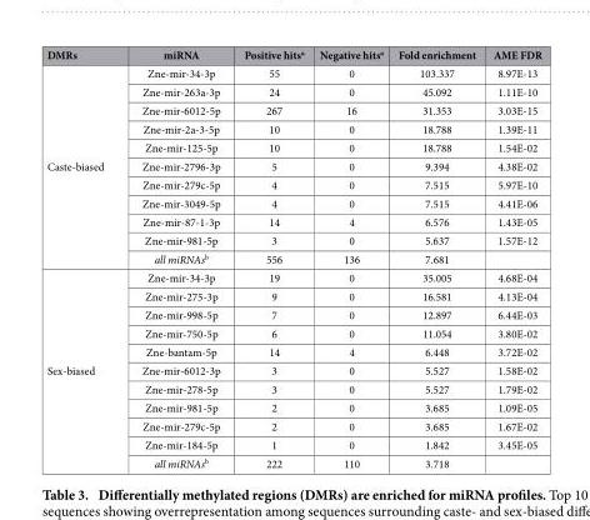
<table><thead><tr><td>DMRs</td><td>miRNA</td><td>Positive hits<sup>a</sup></td><td>Negative hits<sup>a</sup></td><td>Fold enrichment</td><td>AME FDR</td></tr></thead><tbody><tr><td rowspan="11">Caste-biased</td><td>Zne-mir-34-3p</td><td>55</td><td>0</td><td>103.337</td><td>8.97E-13</td></tr><tr><td>Zne-mir-263a-3p</td><td>24</td><td>0</td><td>45.092</td><td>1.11E-10</td></tr><tr><td>Zne-mir-6012-5p</td><td>267</td><td>16</td><td>31.353</td><td>3.03E-15</td></tr><tr><td>Zne-mir-2a-3-5p</td><td>10</td><td>0</td><td>18.788</td><td>1.39E-11</td></tr><tr><td>Zne-mir-125-5p</td><td>10</td><td>0</td><td>18.788</td><td>1.54E-02</td></tr><tr><td>Zne-mir-2796-3p</td><td>5</td><td>0</td><td>9.394</td><td>4.38E-02</td></tr><tr><td>Zne-mir-279c-5p</td><td>4</td><td>0</td><td>7.515</td><td>5.97E-10</td></tr><tr><td>Zne-mir-3049-5p</td><td>4</td><td>0</td><td>7.515</td><td>4.41E-06</td></tr><tr><td>Zne-mir-87-1-3p</td><td>14</td><td>4</td><td>6.576</td><td>1.43E-05</td></tr><tr><td>Zne-mir-981-5p</td><td>3</td><td>0</td><td>5.637</td><td>1.57E-12</td></tr><tr><td>all miRNAs<sup>b</sup></td><td>556</td><td>136</td><td>7.681</td><td></td></tr><tr><td rowspan="11">Sex-biased</td><td>Zne-mir-34-3p</td><td>19</td><td>0</td><td>35.005</td><td>4.68E-04</td></tr><tr><td>Zne-mir-275-3p</td><td>9</td><td>0</td><td>16.581</td><td>4.13E-04</td></tr><tr><td>Zne-mir-998-5p</td><td>7</td><td>0</td><td>12.897</td><td>6.44E-03</td></tr><tr><td>Zne-mir-750-5p</td><td>6</td><td>0</td><td>11.054</td><td>3.80E-02</td></tr><tr><td>Zne-bantam-5p</td><td>14</td><td>4</td><td>6.448</td><td>3.72E-02</td></tr><tr><td>Zne-mir-6012-3p</td><td>3</td><td>0</td><td>5.527</td><td>1.58E-02</td></tr><tr><td>Zne-mir-278-5p</td><td>3</td><td>0</td><td>5.527</td><td>1.79E-02</td></tr><tr><td>Zne-mir-981-5p</td><td>2</td><td>0</td><td>3.685</td><td>1.09E-05</td></tr><tr><td>Zne-mir-279c-5p</td><td>2</td><td>0</td><td>3.685</td><td>1.67E-02</td></tr><tr><td>Zne-mir-184-5p</td><td>1</td><td>0</td><td>1.842</td><td>3.45E-05</td></tr><tr><td>all miRNAs<sup>b</sup></td><td>222</td><td>110</td><td>3.718</td><td></td></tr></tbody></table>